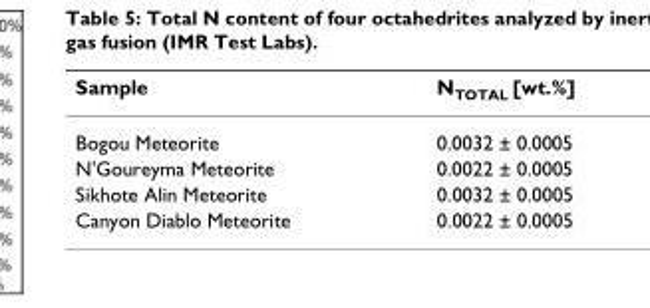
<table><thead><tr><td>Sample</td><td>N<sub>TOTAL</sub> [wt.%]</td></tr></thead><tbody><tr><td>Bogou Meteorite</td><td>0.0032 ± 0.0005</td></tr><tr><td>N&#x27;Goureyma Meteorite</td><td>0.0022 ± 0.0005</td></tr><tr><td>Sikhote Alin Meteorite</td><td>0.0032 ± 0.0005</td></tr><tr><td>Canyon Diablo Meteorite</td><td>0.0022 ± 0.0005</td></tr></tbody></table>